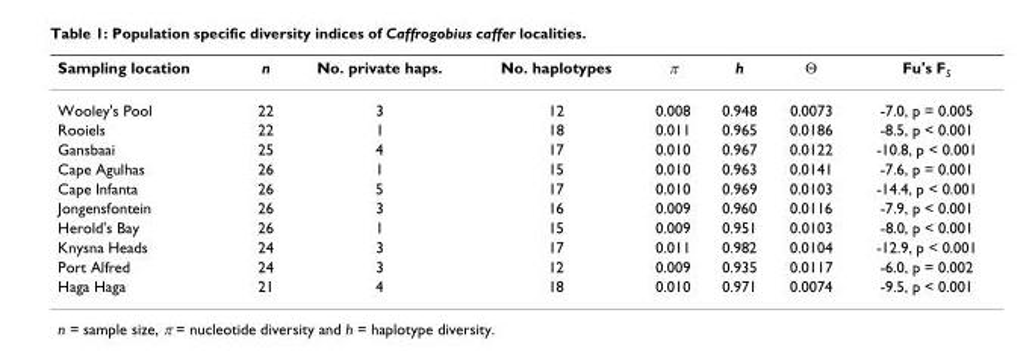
<table><thead><tr><td>Sampling location</td><td>n</td><td>No. private haps.</td><td>No. haplotypes</td><td>π</td><td>h</td><td>Θ</td><td>Fu&#x27;s F<sub>S</sub></td></tr></thead><tbody><tr><td>Wooley&#x27;s Pool</td><td>22</td><td>3</td><td>12</td><td>0.008</td><td>0.948</td><td>0.0073</td><td>-7.0, p = 0.005</td></tr><tr><td>Rooiels</td><td>22</td><td>1</td><td>18</td><td>0.011</td><td>0.965</td><td>0.0186</td><td>-8.5, p &lt; 0.001</td></tr><tr><td>Gansbaai</td><td>25</td><td>4</td><td>17</td><td>0.010</td><td>0.967</td><td>0.0122</td><td>-10.8, p &lt; 0.001</td></tr><tr><td>Cape Agulhas</td><td>26</td><td>1</td><td>15</td><td>0.010</td><td>0.963</td><td>0.0141</td><td>-7.6, p = 0.001</td></tr><tr><td>Cape Infanta</td><td>26</td><td>5</td><td>17</td><td>0.010</td><td>0.969</td><td>0.0103</td><td>-14.4, p &lt; 0.001</td></tr><tr><td>Jongensfontein</td><td>26</td><td>3</td><td>16</td><td>0.009</td><td>0.960</td><td>0.0116</td><td>-7.9, p &lt; 0.001</td></tr><tr><td>Herold&#x27;s Bay</td><td>26</td><td>1</td><td>15</td><td>0.009</td><td>0.951</td><td>0.0103</td><td>-8.0, p &lt; 0.001</td></tr><tr><td>Knysna Heads</td><td>24</td><td>3</td><td>17</td><td>0.011</td><td>0.982</td><td>0.0104</td><td>-12.9, p &lt; 0.001</td></tr><tr><td>Port Alfred</td><td>24</td><td>3</td><td>12</td><td>0.009</td><td>0.935</td><td>0.0117</td><td>-6.0, p = 0.002</td></tr><tr><td>Haga Haga</td><td>21</td><td>4</td><td>18</td><td>0.010</td><td>0.971</td><td>0.0074</td><td>-9.5, p &lt; 0.001</td></tr></tbody></table>